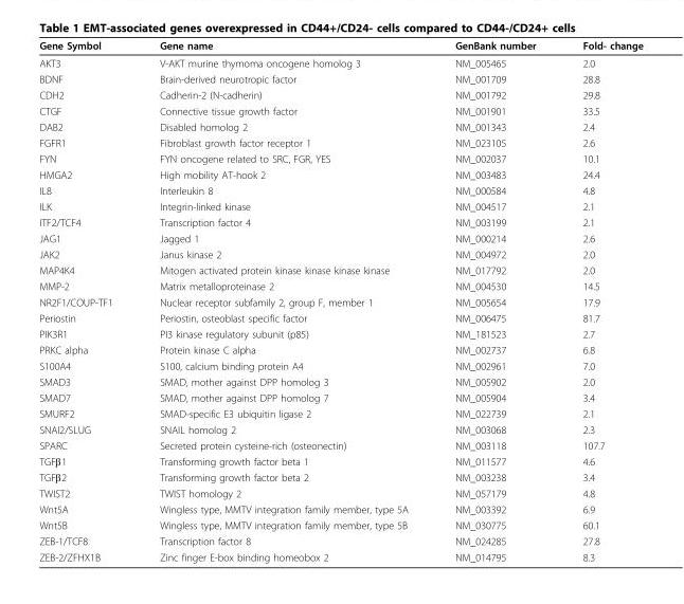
<table><thead><tr><td>Gene Symbol</td><td>Gene name</td><td>GenBank number</td><td>Fold- change</td></tr></thead><tbody><tr><td>AKT3</td><td>V-AKT murine thymoma oncogene homolog 3</td><td>NM_005465</td><td>2.0</td></tr><tr><td>BDNF</td><td>Brain-derived neurotropic factor</td><td>NM_001709</td><td>28.8</td></tr><tr><td>CDH2</td><td>Cadherin-2 (N-cadherin)</td><td>NM_001792</td><td>29.8</td></tr><tr><td>CTGF</td><td>Connective tissue growth factor</td><td>NM_001901</td><td>33.5</td></tr><tr><td>DAB2</td><td>Disabled homolog 2</td><td>NM_001343</td><td>2.4</td></tr><tr><td>FGFR1</td><td>Fibroblast growth factor receptor 1</td><td>NM_023105</td><td>2.6</td></tr><tr><td>FYN</td><td>FYN oncogene related to SRC, FGR, YES</td><td>NM_002037</td><td>10.1</td></tr><tr><td>HMGA2</td><td>High mobility AT-hook 2</td><td>NM_003483</td><td>24.4</td></tr><tr><td>IL8</td><td>Interleukin 8</td><td>NM_000584</td><td>4.8</td></tr><tr><td>ILK</td><td>Integrin-linked kinase</td><td>NM_004517</td><td>2.1</td></tr><tr><td>ITF2/TCF4</td><td>Transcription factor 4</td><td>NM_003199</td><td>2.1</td></tr><tr><td>JAG1</td><td>Jagged 1</td><td>NM_000214</td><td>2.6</td></tr><tr><td>JAK2</td><td>Janus kinase 2</td><td>NM_004972</td><td>2.0</td></tr><tr><td>MAP4K4</td><td>Mitogen activated protein kinase kinase kinase kinase</td><td>NM_017792</td><td>2.0</td></tr><tr><td>MMP-2</td><td>Matrix metalloproteinase 2</td><td>NM_004530</td><td>14.5</td></tr><tr><td>NR2F1/COUP-TF1</td><td>Nuclear receptor subfamily 2, group F, member 1</td><td>NM_005654</td><td>17.9</td></tr><tr><td>Periostin</td><td>Periostin, osteoblast specific factor</td><td>NM_006475</td><td>81.7</td></tr><tr><td>PIK3R1</td><td>PI3 kinase regulatory subunit (p85)</td><td>NM_181523</td><td>2.7</td></tr><tr><td>PRKC alpha</td><td>Protein kinase C alpha</td><td>NM_002737</td><td>6.8</td></tr><tr><td>S100A4</td><td>S100, calcium binding protein A4</td><td>NM_002961</td><td>7.0</td></tr><tr><td>SMAD3</td><td>SMAD, mother against DPP homolog 3</td><td>NM_005902</td><td>2.0</td></tr><tr><td>SMAD7</td><td>SMAD, mother against DPP homolog 7</td><td>NM_005904</td><td>3.4</td></tr><tr><td>SMURF2</td><td>SMAD-specific E3 ubiquitin ligase 2</td><td>NM_022739</td><td>2.1</td></tr><tr><td>SNAI2/SLUG</td><td>SNAIL homolog 2</td><td>NM_003068</td><td>2.3</td></tr><tr><td>SPARC</td><td>Secreted protein cysteine-rich (osteonectin)</td><td>NM_003118</td><td>107.7</td></tr><tr><td>TGFβ1</td><td>Transforming growth factor beta 1</td><td>NM_011577</td><td>4.6</td></tr><tr><td>TGFβ2</td><td>Transforming growth factor beta 2</td><td>NM_003238</td><td>3.4</td></tr><tr><td>TWIST2</td><td>TWIST homology 2</td><td>NM_057179</td><td>4.8</td></tr><tr><td>Wnt5A</td><td>Wingless type, MMTV integration family member, type 5A</td><td>NM_003392</td><td>6.9</td></tr><tr><td>Wnt5B</td><td>Wingless type, MMTV integration family member, type 5B</td><td>NM_030775</td><td>60.1</td></tr><tr><td>ZEB-1/TCF8</td><td>Transcription factor 8</td><td>NM_024285</td><td>27.8</td></tr><tr><td>ZEB-2/ZFHX1B</td><td>Zinc finger E-box binding homeobox 2</td><td>NM_014795</td><td>8.3</td></tr></tbody></table>